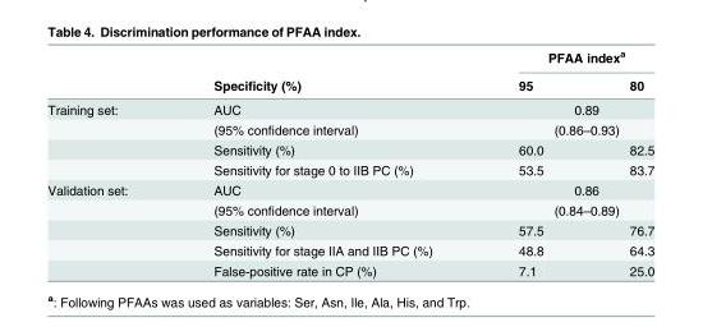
<table><thead><tr><td rowspan="2"></td><td rowspan="2">Specificity (%)</td><td colspan="2">PFAA index<sup>a</sup></td></tr><tr><td>95</td><td>80</td></tr></thead><tbody><tr><td rowspan="4">Training set:</td><td>AUC</td><td colspan="2">0.89</td></tr><tr><td>(95% confidence interval)</td><td colspan="2">(0.86–0.93)</td></tr><tr><td>Sensitivity (%)</td><td>60.0</td><td>82.5</td></tr><tr><td>Sensitivity for stage 0 to IIB PC (%)</td><td>53.5</td><td>83.7</td></tr><tr><td rowspan="5">Validation set:</td><td>AUC</td><td colspan="2">0.86</td></tr><tr><td>(95% confidence interval)</td><td colspan="2">(0.84–0.89)</td></tr><tr><td>Sensitivity (%)</td><td>57.5</td><td>76.7</td></tr><tr><td>Sensitivity for stage IIA and IIB PC (%)</td><td>48.8</td><td>64.3</td></tr><tr><td>False-positive rate in CP (%)</td><td>7.1</td><td>25.0</td></tr></tbody></table>